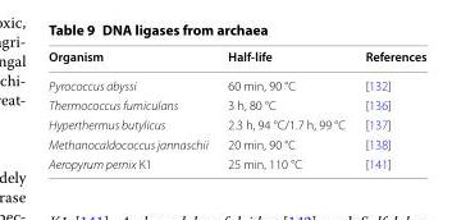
<table><thead><tr><td>Organism</td><td>Half‑life</td><td>References</td></tr></thead><tbody><tr><td>Pyrococcus abyssi</td><td>60 min, 90 °C</td><td>[132]</td></tr><tr><td>Thermococcus fumiculans</td><td>3 h, 80 °C</td><td>[136]</td></tr><tr><td>Hyperthermus butylicus</td><td>2.3 h, 94 °C/1.7 h, 99 °C</td><td>[137]</td></tr><tr><td>Methanocaldococcus jannaschii</td><td>20 min, 90 °C</td><td>[138]</td></tr><tr><td>Aeropyrum pernix K1</td><td>25 min, 110 °C</td><td>[141]</td></tr></tbody></table>